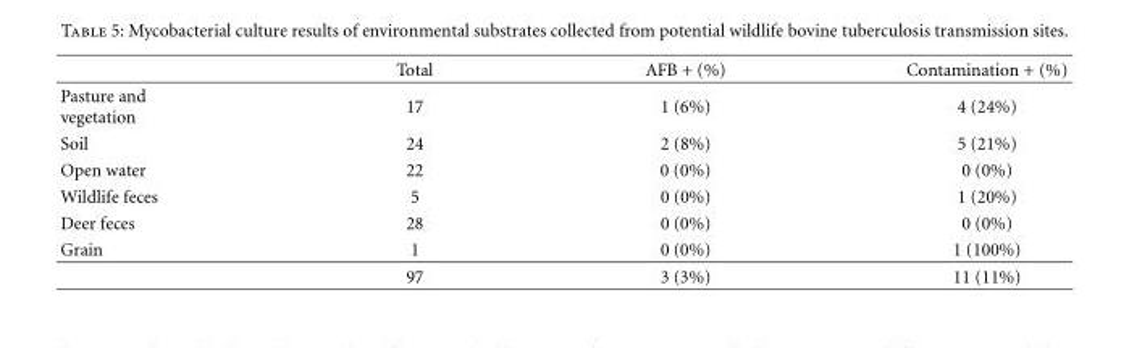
<table><thead><tr><td></td><td>Total</td><td>AFB + (%)</td><td>Contamination + (%)</td></tr></thead><tbody><tr><td>Pasture and vegetation</td><td>17</td><td>1 (6%)</td><td>4 (24%)</td></tr><tr><td>Soil</td><td>24</td><td>2 (8%)</td><td>5 (21%)</td></tr><tr><td>Open water</td><td>22</td><td>0 (0%)</td><td>0 (0%)</td></tr><tr><td>Wildlife feces</td><td>5</td><td>0 (0%)</td><td>1 (20%)</td></tr><tr><td>Deer feces</td><td>28</td><td>0 (0%)</td><td>0 (0%)</td></tr><tr><td rowspan="2">Grain</td><td>1</td><td>0 (0%)</td><td>1 (100%)</td></tr><tr><td>97</td><td>3 (3%)</td><td>11 (11%)</td></tr></tbody></table>